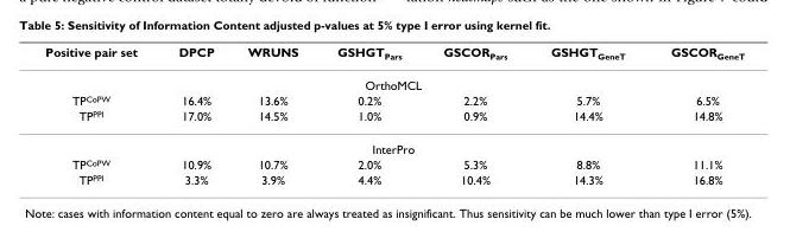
<table><thead><tr><td>Positive pair set</td><td>DPCP</td><td>WRUNS</td><td>GSHGT<sub>Pars</sub></td><td>GSCOR<sub>Pars</sub></td><td>GSHGT<sub>GeneT</sub></td><td>GSCOR<sub>GeneT</sub></td></tr></thead><tbody><tr><td colspan="7">OrthoMCL</td></tr><tr><td>TP<sup>CoPW</sup></td><td>16.4%</td><td>13.6%</td><td>0.2%</td><td>2.2%</td><td>5.7%</td><td>6.5%</td></tr><tr><td>TP<sup>PPI</sup></td><td>17.0%</td><td>14.5%</td><td>1.0%</td><td>0.9%</td><td>14.4%</td><td>14.8%</td></tr><tr><td colspan="7">InterPro</td></tr><tr><td>TP<sup>CoPW</sup></td><td>10.9%</td><td>10.7%</td><td>2.0%</td><td>5.3%</td><td>8.8%</td><td>11.1%</td></tr><tr><td>TP<sup>PPI</sup></td><td>3.3%</td><td>3.9%</td><td>4.4%</td><td>10.4%</td><td>14.3%</td><td>16.8%</td></tr></tbody></table>